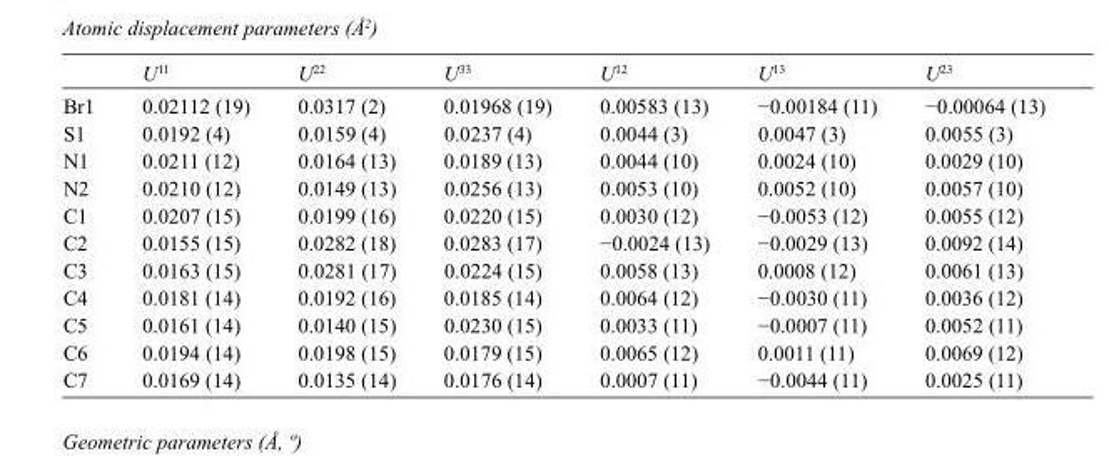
<table><thead><tr><td></td><td>U<sup>11</sup></td><td>U<sup>22</sup></td><td>U<sup>33</sup></td><td>U<sup>12</sup></td><td>U<sup>13</sup></td><td>U<sup>23</sup></td></tr></thead><tbody><tr><td>Br1</td><td>0.02112 (19)</td><td>0.0317 (2)</td><td>0.01968 (19)</td><td>0.00583 (13)</td><td>−0.00184 (11)</td><td>−0.00064 (13)</td></tr><tr><td>S1</td><td>0.0192 (4)</td><td>0.0159 (4)</td><td>0.0237 (4)</td><td>0.0044 (3)</td><td>0.0047 (3)</td><td>0.0055 (3)</td></tr><tr><td>N1</td><td>0.0211 (12)</td><td>0.0164 (13)</td><td>0.0189 (13)</td><td>0.0044 (10)</td><td>0.0024 (10)</td><td>0.0029 (10)</td></tr><tr><td>N2</td><td>0.0210 (12)</td><td>0.0149 (13)</td><td>0.0256 (13)</td><td>0.0053 (10)</td><td>0.0052 (10)</td><td>0.0057 (10)</td></tr><tr><td>C1</td><td>0.0207 (15)</td><td>0.0199 (16)</td><td>0.0220 (15)</td><td>0.0030 (12)</td><td>−0.0053 (12)</td><td>0.0055 (12)</td></tr><tr><td>C2</td><td>0.0155 (15)</td><td>0.0282 (18)</td><td>0.0283 (17)</td><td>−0.0024 (13)</td><td>−0.0029 (13)</td><td>0.0092 (14)</td></tr><tr><td>C3</td><td>0.0163 (15)</td><td>0.0281 (17)</td><td>0.0224 (15)</td><td>0.0058 (13)</td><td>0.0008 (12)</td><td>0.0061 (13)</td></tr><tr><td>C4</td><td>0.0181 (14)</td><td>0.0192 (16)</td><td>0.0185 (14)</td><td>0.0064 (12)</td><td>−0.0030 (11)</td><td>0.0036 (12)</td></tr><tr><td>C5</td><td>0.0161 (14)</td><td>0.0140 (15)</td><td>0.0230 (15)</td><td>0.0033 (11)</td><td>−0.0007 (11)</td><td>0.0052 (11)</td></tr><tr><td>C6</td><td>0.0194 (14)</td><td>0.0198 (15)</td><td>0.0179 (15)</td><td>0.0065 (12)</td><td>0.0011 (11)</td><td>0.0069 (12)</td></tr><tr><td>C7</td><td>0.0169 (14)</td><td>0.0135 (14)</td><td>0.0176 (14)</td><td>0.0007 (11)</td><td>−0.0044 (11)</td><td>0.0025 (11)</td></tr></tbody></table>